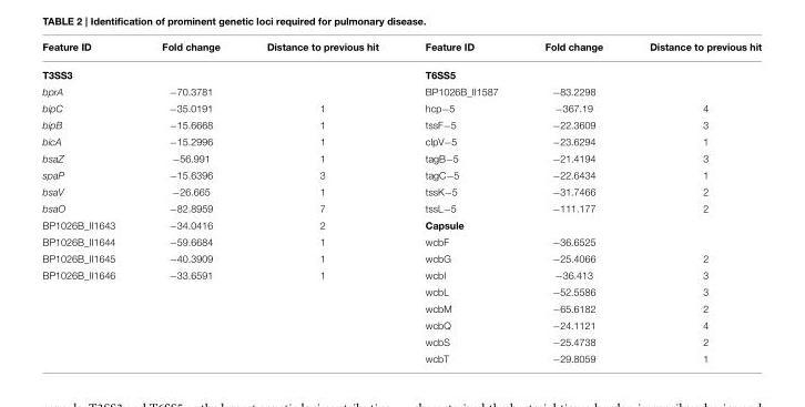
<table><thead><tr><td>Feature ID</td><td>Fold change</td><td>Distance to previous hit</td><td>Feature ID</td><td>Fold change</td><td>Distance to previous hit</td></tr></thead><tbody><tr><td>T3SS3</td><td></td><td></td><td>T6SS5</td><td></td><td></td></tr><tr><td>bprA</td><td>−70.3781</td><td></td><td>BP1026B_II1587</td><td>−83.2298</td><td></td></tr><tr><td>bipC</td><td>−35.0191</td><td>1</td><td>hcp−5</td><td>−367.19</td><td>4</td></tr><tr><td>bipB</td><td>−15.6668</td><td>1</td><td>tssF−5</td><td>−22.3609</td><td>3</td></tr><tr><td>bicA</td><td>−15.2996</td><td>1</td><td>clpV−5</td><td>−23.6294</td><td>1</td></tr><tr><td>bsaZ</td><td>−56.991</td><td>1</td><td>tagB−5</td><td>−21.4194</td><td>3</td></tr><tr><td>spaP</td><td>−15.6396</td><td>3</td><td>tagC−5</td><td>−22.6434</td><td>1</td></tr><tr><td>bsaV</td><td>−26.665</td><td>1</td><td>tssK−5</td><td>−31.7466</td><td>2</td></tr><tr><td>bsaO</td><td>−82.8959</td><td>7</td><td>tssL−5</td><td>−111.177</td><td>2</td></tr><tr><td>BP1026B_II1643</td><td>−34.0416</td><td>2</td><td>Capsule</td><td></td><td></td></tr><tr><td>BP1026B_II1644</td><td>−59.6684</td><td>1</td><td>wcbF</td><td>−36.6525</td><td></td></tr><tr><td>BP1026B_II1645</td><td>−40.3909</td><td>1</td><td>wcbG</td><td>−25.4066</td><td>2</td></tr><tr><td rowspan="6">BP1026B_II1646</td><td>−33.6591</td><td>1</td><td>wcbI</td><td>−36.413</td><td>3</td></tr><tr><td></td><td></td><td>wcbL</td><td>−52.5586</td><td>3</td></tr><tr><td></td><td></td><td>wcbM</td><td>−65.6182</td><td>2</td></tr><tr><td></td><td></td><td>wcbQ</td><td>−24.1121</td><td>4</td></tr><tr><td></td><td></td><td>wcbS</td><td>−25.4738</td><td>2</td></tr><tr><td></td><td></td><td>wcbT</td><td>−29.8059</td><td>1</td></tr></tbody></table>